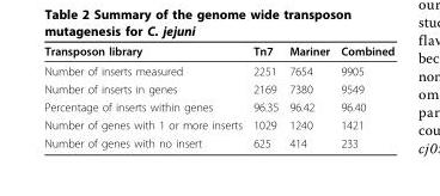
<table><thead><tr><td>Transposon library</td><td>Tn7</td><td>Mariner</td><td>Combined</td></tr></thead><tbody><tr><td>Number of inserts measured</td><td>2251</td><td>7654</td><td>9905</td></tr><tr><td>Number of inserts in genes</td><td>2169</td><td>7380</td><td>9549</td></tr><tr><td>Percentage of inserts within genes</td><td>96.35</td><td>96.42</td><td>96.40</td></tr><tr><td>Number of genes with 1 or more inserts</td><td>1029</td><td>1240</td><td>1421</td></tr><tr><td>Number of genes with no insert</td><td>625</td><td>414</td><td>233</td></tr></tbody></table>